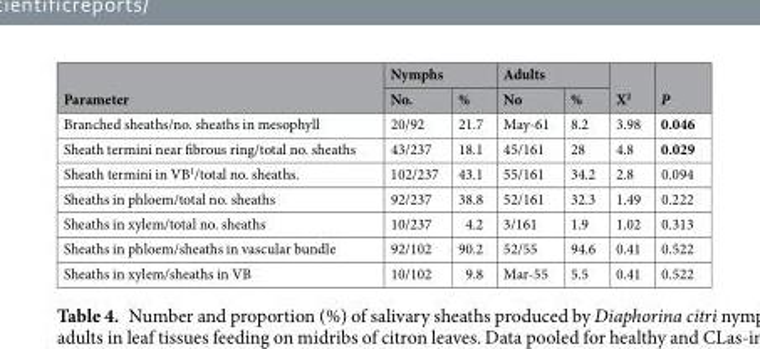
<table><thead><tr><td rowspan="2">Parameter</td><td colspan="2">Nymphs</td><td colspan="2">Adults</td><td rowspan="2">X<sup>2</sup></td><td rowspan="2">P</td></tr><tr><td>No.</td><td>%</td><td>No</td><td>%</td></tr></thead><tbody><tr><td>Branched sheaths/no. sheaths in mesophyll</td><td>20/92</td><td>21.7</td><td>May-61</td><td>8.2</td><td>3.98</td><td>0.046</td></tr><tr><td>Sheath termini near fibrous ring/total no. sheaths</td><td>43/237</td><td>18.1</td><td>45/161</td><td>28</td><td>4.8</td><td>0.029</td></tr><tr><td>Sheath termini in VB<sup>1</sup>/total no. sheaths.</td><td>102/237</td><td>43.1</td><td>55/161</td><td>34.2</td><td>2.8</td><td>0.094</td></tr><tr><td>Sheaths in phloem/total no. sheaths</td><td>92/237</td><td>38.8</td><td>52/161</td><td>32.3</td><td>1.49</td><td>0.222</td></tr><tr><td>Sheaths in xylem/total no. sheaths</td><td>10/237</td><td>4.2</td><td>3/161</td><td>1.9</td><td>1.02</td><td>0.313</td></tr><tr><td>Sheaths in phloem/sheaths in vascular bundle</td><td>92/102</td><td>90.2</td><td>52/55</td><td>94.6</td><td>0.41</td><td>0.522</td></tr><tr><td>Sheaths in xylem/sheaths in VB</td><td>10/102</td><td>9.8</td><td>Mar-55</td><td>5.5</td><td>0.41</td><td>0.522</td></tr></tbody></table>